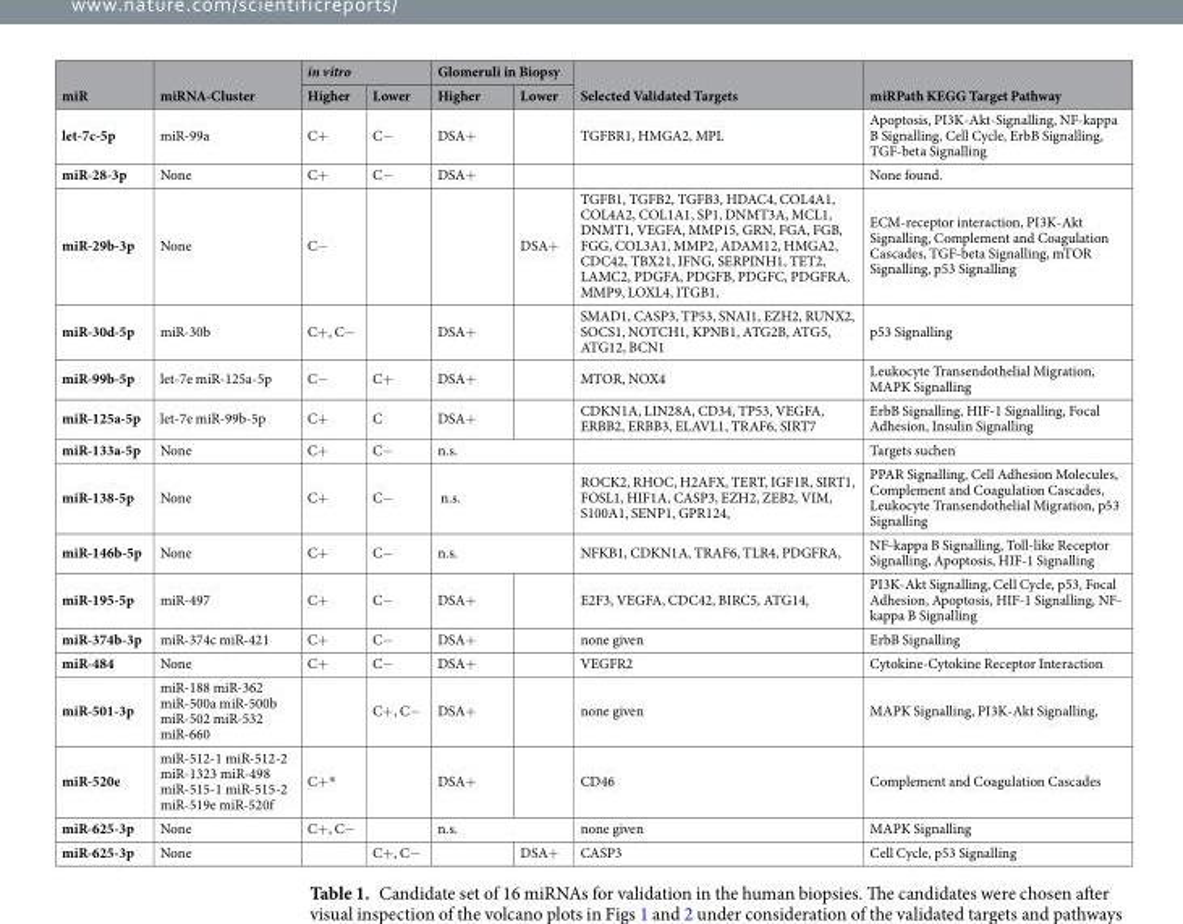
<table><thead><tr><td rowspan="2">miR</td><td rowspan="2">miRNA-Cluster</td><td colspan="2">in vitro</td><td colspan="2">Glomeruli in Biopsy</td><td rowspan="2">Selected Validated Targets</td><td rowspan="2">miRPath KEGG Target Pathway</td></tr><tr><td>Higher</td><td>Lower</td><td>Higher</td><td>Lower</td></tr></thead><tbody><tr><td>let-7c-5p</td><td>miR-99a</td><td>C+</td><td>C−</td><td>DSA+</td><td></td><td>TGFBR1, HMGA2, MPL</td><td>Apoptosis, PI3K-Akt-Signalling, NF-kappa B Signalling, Cell Cycle, ErbB Signalling, TGF-beta Signalling</td></tr><tr><td>miR-28-3p</td><td>None</td><td>C+</td><td>C−</td><td>DSA+</td><td></td><td></td><td>None found.</td></tr><tr><td>miR-29b-3p</td><td>None</td><td>C−</td><td></td><td></td><td>DSA+</td><td>TGFB1, TGFB2, TGFB3, HDAC4, COL4A1, COL4A2, COL1A1, SP1, DNMT3A, MCL1, DNMT1, VEGFA, MMP15, GRN, FGA, FGB, FGG, COL3A1, MMP2, ADAM12, HMGA2, CDC42, TBX21, IFNG, SERPINH1, TET2, LAMC2, PDGFA, PDGFB, PDGFC, PDGFRA, MMP9, LOXL4, ITGB1,</td><td>ECM-receptor interaction, PI3K-Akt Signalling, Complement and Coagulation Cascades, TGF-beta Signalling, mTOR Signalling, p53 Signalling</td></tr><tr><td>miR-30d-5p</td><td>miR-30b</td><td>C+, C−</td><td></td><td>DSA+</td><td></td><td>SMAD1, CASP3, TP53, SNAI1, EZH2, RUNX2, SOCS1, NOTCH1, KPNB1, ATG2B, ATG5, ATG12, BCN1</td><td>p53 Signalling</td></tr><tr><td>miR-99b-5p</td><td>let-7e miR-125a-5p</td><td>C−</td><td>C+</td><td>DSA+</td><td></td><td>MTOR, NOX4</td><td>Leukocyte Transendothelial Migration, MAPK Signalling</td></tr><tr><td>miR-125a-5p</td><td>let-7e miR-99b-5p</td><td>C+</td><td>C</td><td>DSA+</td><td></td><td>CDKN1A, LIN28A, CD34, TP53, VEGFA, ERBB2, ERBB3, ELAVL1, TRAF6, SIRT7</td><td>ErbB Signalling, HIF-1 Signalling, Focal Adhesion, Insulin Signalling</td></tr><tr><td>miR-133a-5p</td><td>None</td><td>C+</td><td>C−</td><td colspan="2">n.s.</td><td></td><td>Targets suchen</td></tr><tr><td>miR-138-5p</td><td>None</td><td>C+</td><td>C−</td><td colspan="2">n.s.</td><td>ROCK2, RHOC, H2AFX, TERT, IGF1R, SIRT1, FOSL1, HIF1A, CASP3, EZH2, ZEB2, VIM, S100A1, SENP1, GPR124,</td><td>PPAR Signalling, Cell Adhesion Molecules, Complement and Coagulation Cascades, Leukocyte Transendothelial Migration, p53 Signalling</td></tr><tr><td>miR-146b-5p</td><td>None</td><td>C+</td><td>C−</td><td colspan="2">n.s.</td><td>NFKB1, CDKN1A, TRAF6, TLR4, PDGFRA,</td><td>NF-kappa B Signalling, Toll-like Receptor Signalling, Apoptosis, HIF-1 Signalling</td></tr><tr><td>miR-195-5p</td><td>miR-497</td><td>C+</td><td>C−</td><td>DSA+</td><td></td><td>E2F3, VEGFA, CDC42, BIRC5, ATG14,</td><td>PI3K-Akt Signalling, Cell Cycle, p53, Focal Adhesion, Apoptosis, HIF-1 Signalling, NF- kappa B Signalling</td></tr><tr><td>miR-374b-3p</td><td>miR-374c miR-421</td><td>C+</td><td>C−</td><td>DSA+</td><td></td><td>none given</td><td>ErbB Signalling</td></tr><tr><td>miR-484</td><td>None</td><td>C+</td><td>C−</td><td>DSA+</td><td></td><td>VEGFR2</td><td>Cytokine-Cytokine Receptor Interaction</td></tr><tr><td>miR-501-3p</td><td>miR-188 miR-362 miR-500a miR-500b miR-502 miR-532 miR-660</td><td></td><td>C+, C−</td><td>DSA+</td><td></td><td>none given</td><td>MAPK Signalling, PI3K-Akt Signalling,</td></tr><tr><td>miR-520e</td><td>miR-512-1 miR-512-2 miR-1323 miR-498 miR-515-1 miR-515-2 miR-519e miR-520f</td><td>C+*</td><td></td><td>DSA+</td><td></td><td>CD46</td><td>Complement and Coagulation Cascades</td></tr><tr><td>miR-625-3p</td><td>None</td><td>C+, C−</td><td></td><td colspan="2">n.s.</td><td>none given</td><td>MAPK Signalling</td></tr><tr><td>miR-625-3p</td><td>None</td><td></td><td>C+, C−</td><td></td><td>DSA+</td><td>CASP3</td><td>Cell Cycle, p53 Signalling</td></tr></tbody></table>